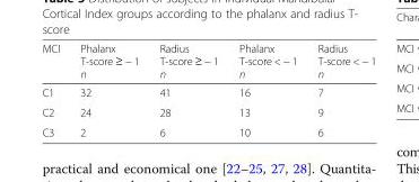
<table><thead><tr><td>MCI</td><td>Phalanx T-score ≥ − 1 n</td><td>Radius T-score ≥ − 1 n</td><td>Phalanx T-score &lt; − 1 n</td><td>Radius T-score &lt; − 1 n</td></tr></thead><tbody><tr><td>C1</td><td>32</td><td>41</td><td>16</td><td>7</td></tr><tr><td>C2</td><td>24</td><td>28</td><td>13</td><td>9</td></tr><tr><td>C3</td><td>2</td><td>6</td><td>10</td><td>6</td></tr></tbody></table>